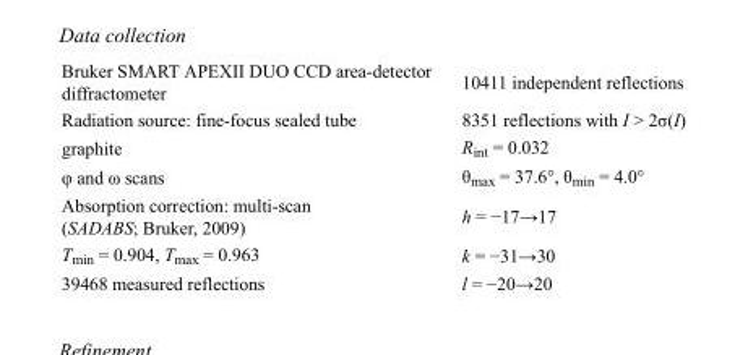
<table><tbody><tr><td>Bruker SMART APEXII DUO CCD area-detector diffractometer</td><td>10411 independent reflections</td></tr><tr><td>Radiation source: fine-focus sealed tube</td><td>8351 reflections with I &gt; 2σ(I)</td></tr><tr><td>graphite</td><td>R<sub>int</sub> = 0.032</td></tr><tr><td>φ and ω scans</td><td>θ<sub>max</sub> = 37.6°, θ<sub>min</sub> = 4.0°</td></tr><tr><td>Absorption correction: multi-scan (SADABS; Bruker, 2009)</td><td>h = −17→17</td></tr><tr><td>T<sub>min</sub> = 0.904, T<sub>max</sub> = 0.963</td><td>k = −31→30</td></tr><tr><td>39468 measured reflections</td><td>l = −20→20</td></tr></tbody></table>